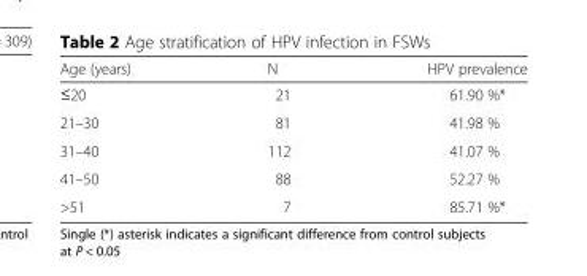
<table><thead><tr><td>Age (years)</td><td>N</td><td>HPV prevalence</td></tr></thead><tbody><tr><td>≤20</td><td>21</td><td>61.90 %*</td></tr><tr><td>21–30</td><td>81</td><td>41.98 %</td></tr><tr><td>31–40</td><td>112</td><td>41.07 %</td></tr><tr><td>41–50</td><td>88</td><td>52.27 %</td></tr><tr><td>&gt;51</td><td>7</td><td>85.71 %*</td></tr></tbody></table>